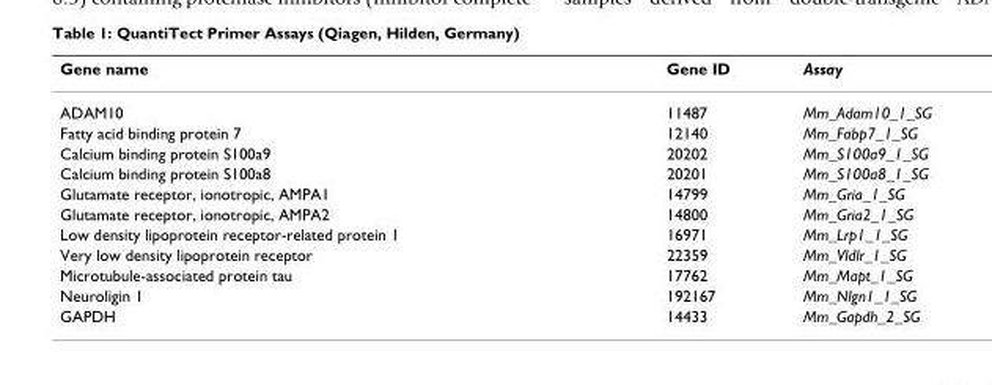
<table><thead><tr><td>Gene name</td><td>Gene ID</td><td>Assay</td></tr></thead><tbody><tr><td>ADAM10</td><td>11487</td><td>Mm_Adam10_1_SG</td></tr><tr><td>Fatty acid binding protein 7</td><td>12140</td><td>Mm_Fabp7_1_SG</td></tr><tr><td>Calcium binding protein S100a9</td><td>20202</td><td>Mm_S100a9_1_SG</td></tr><tr><td>Calcium binding protein S100a8</td><td>20201</td><td>Mm_S100a8_1_SG</td></tr><tr><td>Glutamate receptor, ionotropic, AMPA1</td><td>14799</td><td>Mm_Gria_1_SG</td></tr><tr><td>Glutamate receptor, ionotropic, AMPA2</td><td>14800</td><td>Mm_Gria2_1_SG</td></tr><tr><td>Low density lipoprotein receptor-related protein 1</td><td>16971</td><td>Mm_Lrp1_1_SG</td></tr><tr><td>Very low density lipoprotein receptor</td><td>22359</td><td>Mm_Vldlr_1_SG</td></tr><tr><td>Microtubule-associated protein tau</td><td>17762</td><td>Mm_Mapt_1_SG</td></tr><tr><td>Neuroligin 1</td><td>192167</td><td>Mm_Nlgn1_1_SG</td></tr><tr><td>GAPDH</td><td>14433</td><td>Mm_Gapdh_2_SG</td></tr></tbody></table>